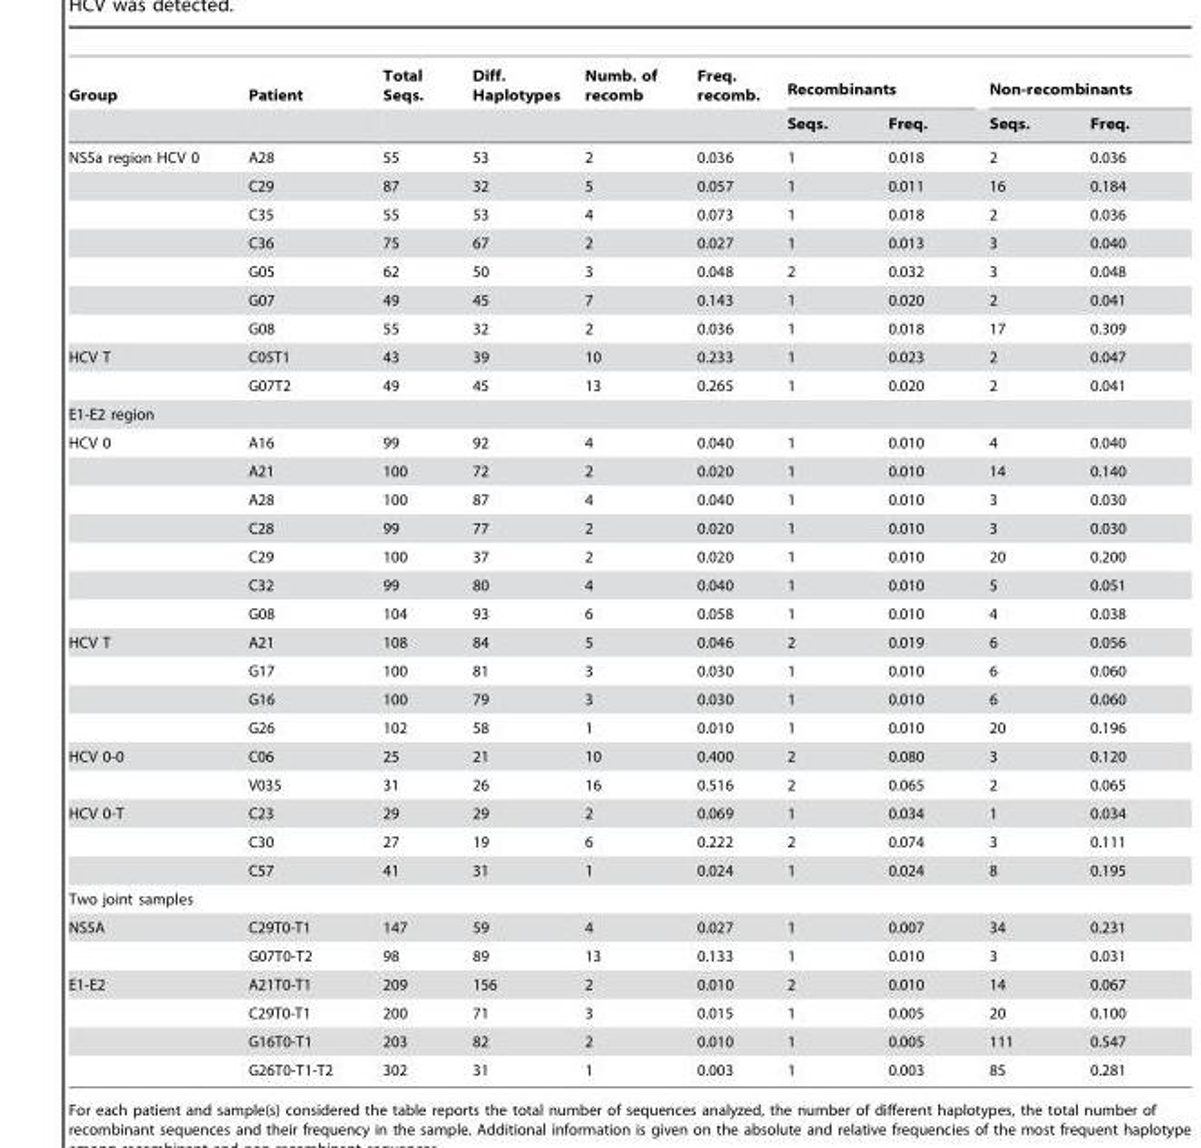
<table><thead><tr><td rowspan="2">Group</td><td rowspan="2">Patient</td><td rowspan="2">Total Seqs.</td><td rowspan="2">Diff. Haplotypes</td><td rowspan="2">Numb. of recomb</td><td rowspan="2">Freq. recomb.</td><td colspan="2">Recombinants</td><td colspan="2">Non-recombinants</td></tr><tr><td>Seqs.</td><td>Freq.</td><td>Seqs.</td><td>Freq.</td></tr></thead><tbody><tr><td rowspan="7">NS5a region HCV 0</td><td>A28</td><td>55</td><td>53</td><td>2</td><td>0.036</td><td>1</td><td>0.018</td><td>2</td><td>0.036</td></tr><tr><td>C29</td><td>87</td><td>32</td><td>5</td><td>0.057</td><td>1</td><td>0.011</td><td>16</td><td>0.184</td></tr><tr><td>C35</td><td>55</td><td>53</td><td>4</td><td>0.073</td><td>1</td><td>0.018</td><td>2</td><td>0.036</td></tr><tr><td>C36</td><td>75</td><td>67</td><td>2</td><td>0.027</td><td>1</td><td>0.013</td><td>3</td><td>0.040</td></tr><tr><td>G05</td><td>62</td><td>50</td><td>3</td><td>0.048</td><td>2</td><td>0.032</td><td>3</td><td>0.048</td></tr><tr><td>G07</td><td>49</td><td>45</td><td>7</td><td>0.143</td><td>1</td><td>0.020</td><td>2</td><td>0.041</td></tr><tr><td>G08</td><td>55</td><td>32</td><td>2</td><td>0.036</td><td>1</td><td>0.018</td><td>17</td><td>0.309</td></tr><tr><td rowspan="2">HCV T</td><td>C05T1</td><td>43</td><td>39</td><td>10</td><td>0.233</td><td>1</td><td>0.023</td><td>2</td><td>0.047</td></tr><tr><td>G07T2</td><td>49</td><td>45</td><td>13</td><td>0.265</td><td>1</td><td>0.020</td><td>2</td><td>0.041</td></tr><tr><td colspan="10">E1-E2 region</td></tr><tr><td rowspan="7">HCV 0</td><td>A16</td><td>99</td><td>92</td><td>4</td><td>0.040</td><td>1</td><td>0.010</td><td>4</td><td>0.040</td></tr><tr><td>A21</td><td>100</td><td>72</td><td>2</td><td>0.020</td><td>1</td><td>0.010</td><td>14</td><td>0.140</td></tr><tr><td>A28</td><td>100</td><td>87</td><td>4</td><td>0.040</td><td>1</td><td>0.010</td><td>3</td><td>0.030</td></tr><tr><td>C28</td><td>99</td><td>77</td><td>2</td><td>0.020</td><td>1</td><td>0.010</td><td>3</td><td>0.030</td></tr><tr><td>C29</td><td>100</td><td>37</td><td>2</td><td>0.020</td><td>1</td><td>0.010</td><td>20</td><td>0.200</td></tr><tr><td>C32</td><td>99</td><td>80</td><td>4</td><td>0.040</td><td>1</td><td>0.010</td><td>5</td><td>0.051</td></tr><tr><td>G08</td><td>104</td><td>93</td><td>6</td><td>0.058</td><td>1</td><td>0.010</td><td>4</td><td>0.038</td></tr><tr><td rowspan="4">HCV T</td><td>A21</td><td>108</td><td>84</td><td>5</td><td>0.046</td><td>2</td><td>0.019</td><td>6</td><td>0.056</td></tr><tr><td>G17</td><td>100</td><td>81</td><td>3</td><td>0.030</td><td>1</td><td>0.010</td><td>6</td><td>0.060</td></tr><tr><td>G16</td><td>100</td><td>79</td><td>3</td><td>0.030</td><td>1</td><td>0.010</td><td>6</td><td>0.060</td></tr><tr><td>G26</td><td>102</td><td>58</td><td>1</td><td>0.010</td><td>1</td><td>0.010</td><td>20</td><td>0.196</td></tr><tr><td rowspan="2">HCV 0-0</td><td>C06</td><td>25</td><td>21</td><td>10</td><td>0.400</td><td>2</td><td>0.080</td><td>3</td><td>0.120</td></tr><tr><td>V035</td><td>31</td><td>26</td><td>16</td><td>0.516</td><td>2</td><td>0.065</td><td>2</td><td>0.065</td></tr><tr><td rowspan="3">HCV 0-T</td><td>C23</td><td>29</td><td>29</td><td>2</td><td>0.069</td><td>1</td><td>0.034</td><td>1</td><td>0.034</td></tr><tr><td>C30</td><td>27</td><td>19</td><td>6</td><td>0.222</td><td>2</td><td>0.074</td><td>3</td><td>0.111</td></tr><tr><td>C57</td><td>41</td><td>31</td><td>1</td><td>0.024</td><td>1</td><td>0.024</td><td>8</td><td>0.195</td></tr><tr><td colspan="10">Two joint samples</td></tr><tr><td rowspan="2">NS5A</td><td>C29T0-T1</td><td>147</td><td>59</td><td>4</td><td>0.027</td><td>1</td><td>0.007</td><td>34</td><td>0.231</td></tr><tr><td>G07T0-T2</td><td>98</td><td>89</td><td>13</td><td>0.133</td><td>1</td><td>0.010</td><td>3</td><td>0.031</td></tr><tr><td rowspan="4">E1-E2</td><td>A21T0-T1</td><td>209</td><td>156</td><td>2</td><td>0.010</td><td>2</td><td>0.010</td><td>14</td><td>0.067</td></tr><tr><td>C29T0-T1</td><td>200</td><td>71</td><td>3</td><td>0.015</td><td>1</td><td>0.005</td><td>20</td><td>0.100</td></tr><tr><td>G16T0-T1</td><td>203</td><td>82</td><td>2</td><td>0.010</td><td>1</td><td>0.005</td><td>111</td><td>0.547</td></tr><tr><td>G26T0-T1-T2</td><td>302</td><td>31</td><td>1</td><td>0.003</td><td>1</td><td>0.003</td><td>85</td><td>0.281</td></tr></tbody></table>